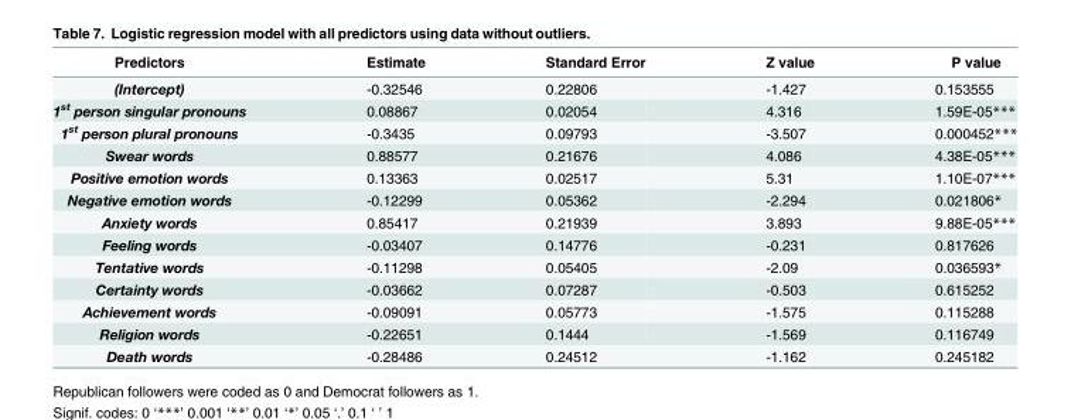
<table><thead><tr><td>Predictors</td><td>Estimate</td><td>Standard Error</td><td>Z value</td><td>P value</td></tr></thead><tbody><tr><td>(Intercept)</td><td>-0.32546</td><td>0.22806</td><td>-1.427</td><td>0.153555</td></tr><tr><td>1<sup>st</sup> person singular pronouns</td><td>0.08867</td><td>0.02054</td><td>4.316</td><td>1.59E-05***</td></tr><tr><td>1<sup>st</sup> person plural pronouns</td><td>-0.3435</td><td>0.09793</td><td>-3.507</td><td>0.000452***</td></tr><tr><td>Swear words</td><td>0.88577</td><td>0.21676</td><td>4.086</td><td>4.38E-05***</td></tr><tr><td>Positive emotion words</td><td>0.13363</td><td>0.02517</td><td>5.31</td><td>1.10E-07***</td></tr><tr><td>Negative emotion words</td><td>-0.12299</td><td>0.05362</td><td>-2.294</td><td>0.021806*</td></tr><tr><td>Anxiety words</td><td>0.85417</td><td>0.21939</td><td>3.893</td><td>9.88E-05***</td></tr><tr><td>Feeling words</td><td>-0.03407</td><td>0.14776</td><td>-0.231</td><td>0.817626</td></tr><tr><td>Tentative words</td><td>-0.11298</td><td>0.05405</td><td>-2.09</td><td>0.036593*</td></tr><tr><td>Certainty words</td><td>-0.03662</td><td>0.07287</td><td>-0.503</td><td>0.615252</td></tr><tr><td>Achievement words</td><td>-0.09091</td><td>0.05773</td><td>-1.575</td><td>0.115288</td></tr><tr><td>Religion words</td><td>-0.22651</td><td>0.1444</td><td>-1.569</td><td>0.116749</td></tr><tr><td>Death words</td><td>-0.28486</td><td>0.24512</td><td>-1.162</td><td>0.245182</td></tr></tbody></table>